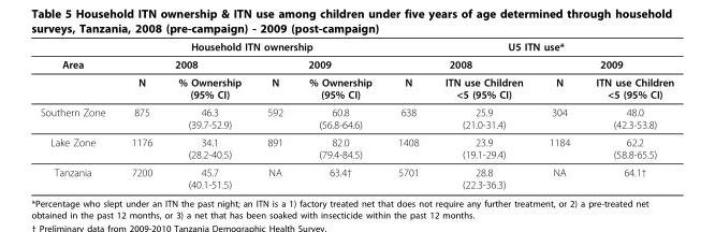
<table><thead><tr><td rowspan="3">Area</td><td colspan="4">Household ITN ownership</td><td colspan="4">U5 ITN use*</td></tr><tr><td colspan="2">2008</td><td colspan="2">2009</td><td colspan="2">2008</td><td colspan="2">2009</td></tr><tr><td>N</td><td>% Ownership (95% CI)</td><td>N</td><td>% Ownership (95% CI)</td><td>N</td><td>ITN use Children &lt;5 (95% CI)</td><td>N</td><td>ITN use Children &lt;5 (95% CI)</td></tr></thead><tbody><tr><td>Southern Zone</td><td>875</td><td>46.3 (39.7-52.9)</td><td>592</td><td>60.8 (56.8-64.6)</td><td>638</td><td>25.9 (21.0-31.4)</td><td>304</td><td>48.0 (42.3-53.8)</td></tr><tr><td>Lake Zone</td><td>1176</td><td>34.1 (28.2-40.5)</td><td>891</td><td>82.0 (79.4-84.5)</td><td>1408</td><td>23.9 (19.1-29.4)</td><td>1184</td><td>62.2 (58.8-65.5)</td></tr><tr><td>Tanzania</td><td>7200</td><td>45.7 (40.1-51.5)</td><td>NA</td><td>63.4†</td><td>5701</td><td>28.8 (22.3-36.3)</td><td>NA</td><td>64.1†</td></tr></tbody></table>